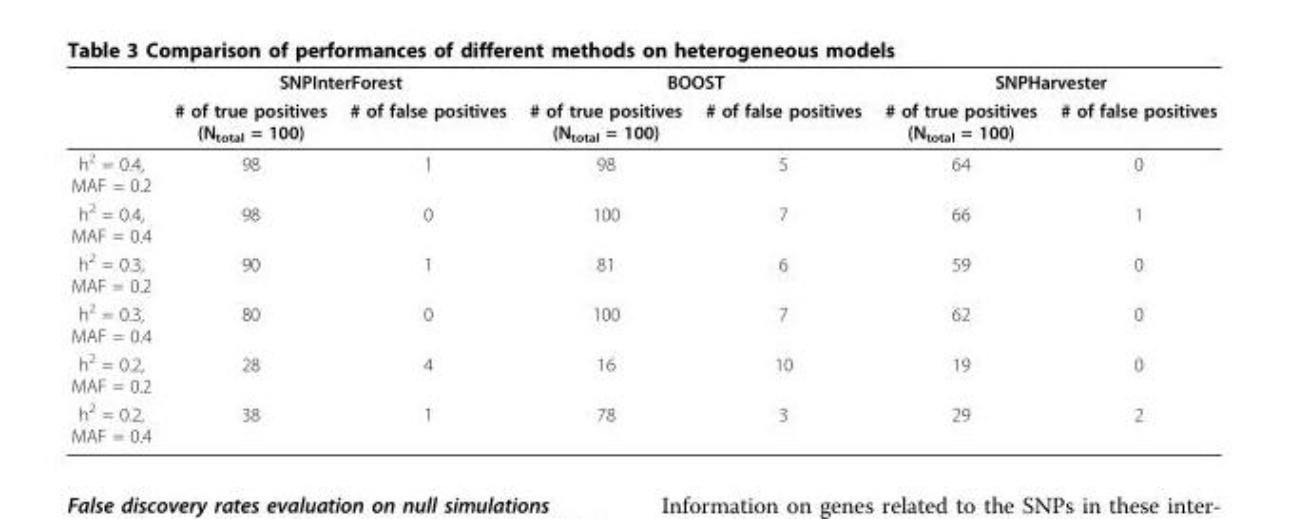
<table><thead><tr><td rowspan="2"></td><td colspan="2">SNPInterForest</td><td colspan="2">BOOST</td><td colspan="2">SNPHarvester</td></tr><tr><td># of true positives (N<sub>total</sub> = 100)</td><td># of false positives</td><td># of true positives (N<sub>total</sub> = 100)</td><td># of false positives</td><td># of true positives (N<sub>total</sub> = 100)</td><td># of false positives</td></tr></thead><tbody><tr><td>h<sup>2</sup> = 0.4, MAF = 0.2</td><td>98</td><td>1</td><td>98</td><td>5</td><td>64</td><td>0</td></tr><tr><td>h<sup>2</sup> = 0.4, MAF = 0.4</td><td>98</td><td>0</td><td>100</td><td>7</td><td>66</td><td>1</td></tr><tr><td>h<sup>2</sup> = 0.3, MAF = 0.2</td><td>90</td><td>1</td><td>81</td><td>6</td><td>59</td><td>0</td></tr><tr><td>h<sup>2</sup> = 0.3, MAF = 0.4</td><td>80</td><td>0</td><td>100</td><td>7</td><td>62</td><td>0</td></tr><tr><td>h<sup>2</sup> = 0.2, MAF = 0.2</td><td>28</td><td>4</td><td>16</td><td>10</td><td>19</td><td>0</td></tr><tr><td>h<sup>2</sup> = 0.2, MAF = 0.4</td><td>38</td><td>1</td><td>78</td><td>3</td><td>29</td><td>2</td></tr></tbody></table>